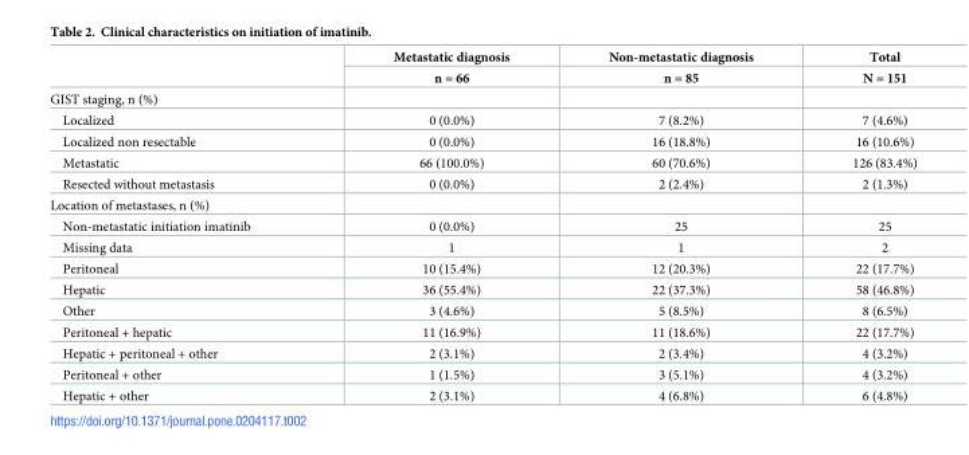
<table><thead><tr><td rowspan="2"></td><td rowspan="2">Metastatic diagnosis n = 66</td><td rowspan="2">Non-metastatic diagnosis n = 85</td><td rowspan="2">Total N = 151</td></tr><tr></tr></thead><tbody><tr><td colspan="4">GIST staging, n (%)</td></tr><tr><td>Localized</td><td>0 (0.0%)</td><td>7 (8.2%)</td><td>7 (4.6%)</td></tr><tr><td>Localized non resectable</td><td>0 (0.0%)</td><td>16 (18.8%)</td><td>16 (10.6%)</td></tr><tr><td>Metastatic</td><td>66 (100.0%)</td><td>60 (70.6%)</td><td>126 (83.4%)</td></tr><tr><td>Resected without metastasis</td><td>0 (0.0%)</td><td>2 (2.4%)</td><td>2 (1.3%)</td></tr><tr><td colspan="4">Location of metastases, n (%)</td></tr><tr><td>Non-metastatic initiation imatinib</td><td>0 (0.0%)</td><td>25</td><td>25</td></tr><tr><td>Missing data</td><td>1</td><td>1</td><td>2</td></tr><tr><td>Peritoneal</td><td>10 (15.4%)</td><td>12 (20.3%)</td><td>22 (17.7%)</td></tr><tr><td>Hepatic</td><td>36 (55.4%)</td><td>22 (37.3%)</td><td>58 (46.8%)</td></tr><tr><td>Other</td><td>3 (4.6%)</td><td>5 (8.5%)</td><td>8 (6.5%)</td></tr><tr><td>Peritoneal + hepatic</td><td>11 (16.9%)</td><td>11 (18.6%)</td><td>22 (17.7%)</td></tr><tr><td>Hepatic + peritoneal + other</td><td>2 (3.1%)</td><td>2 (3.4%)</td><td>4 (3.2%)</td></tr><tr><td>Peritoneal + other</td><td>1 (1.5%)</td><td>3 (5.1%)</td><td>4 (3.2%)</td></tr><tr><td>Hepatic + other</td><td>2 (3.1%)</td><td>4 (6.8%)</td><td>6 (4.8%)</td></tr></tbody></table>